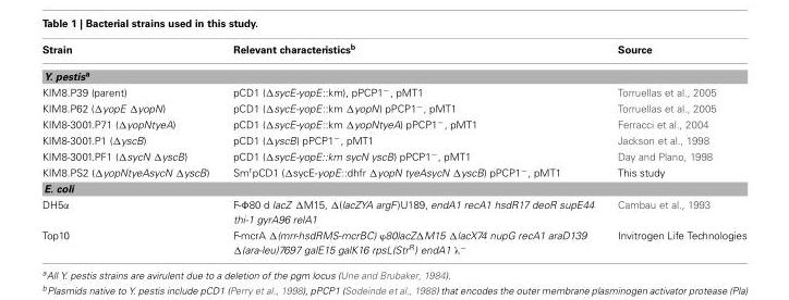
<table><thead><tr><td>Strain</td><td>Relevant characteristics<sup>b</sup></td><td>Source</td></tr></thead><tbody><tr><td colspan="3">Y. pestis<sup>a</sup></td></tr><tr><td>KIM8.P39 (parent)</td><td>pCD1 (ΔsycE-yopE::km), pPCP1<sup>−</sup>, pMT1</td><td>Torruellas et al., 2005</td></tr><tr><td>KIM8.P62 (ΔyopE ΔyopN)</td><td>pCD1 (ΔsycE-yopE::km ΔyopN) pPCP1<sup>−</sup>, pMT1</td><td>Torruellas et al., 2005</td></tr><tr><td>KIM8-3001.P71 (ΔyopNtyeA)</td><td>pCD1 (ΔsycE-yopE::km ΔyopNtyeA) pPCP1<sup>−</sup>, pMT1</td><td>Ferracci et al., 2004</td></tr><tr><td>KIM8-3001.P1 (ΔyscB)</td><td>pCD1 (ΔyscB) pPCP1<sup>−</sup>, pMT1</td><td>Jackson et al., 1998</td></tr><tr><td>KIM8-3001.PF1 (ΔsycN ΔyscB)</td><td>pCD1 (ΔsycE-yopE::km sycN yscB) pPCP1<sup>−</sup>, pMT1</td><td>Day and Plano, 1998</td></tr><tr><td>KIM8.PS2 (ΔyopNtyeAsycN ΔyscB)</td><td>Sm<sup>r</sup>pCD1 (ΔsycE-yopE::dhfr ΔyopN tyeAsycN ΔyscB) pPCP1<sup>−</sup>, pMT1</td><td>This study</td></tr><tr><td colspan="3">E. coli</td></tr><tr><td>DH5α</td><td>F-Φ80 d lacZ ΔM15, Δ(lacZYA argF)U189, endA1 recA1 hsdR17 deoR supE44 thi-1 gyrA96 relA1</td><td>Cambau et al., 1993</td></tr><tr><td>Top10</td><td>F-mcrA Δ(mrr-hsdRMS-mcrBC) ϕ80lacZΔM15 ΔlacX74 nupG recA1 araD139 Δ(ara-leu)7697 galE15 galK16 rpsL(Str<sup>R</sup>) endA1 λ<sup>−</sup></td><td>Invitrogen Life Technologies</td></tr></tbody></table>